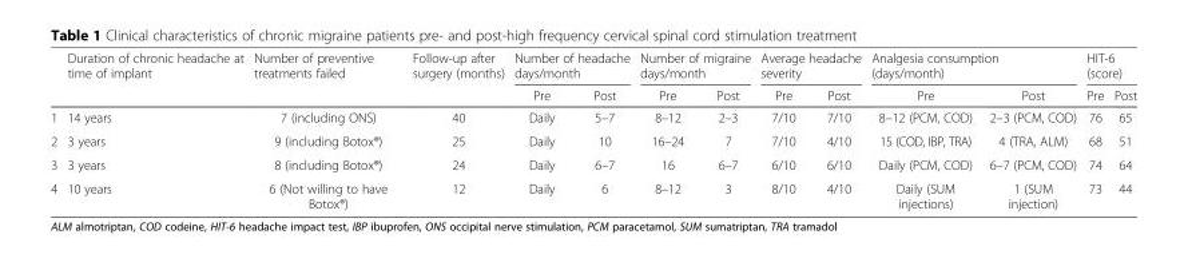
<table><thead><tr><td rowspan="2"></td><td rowspan="2">Duration of chronic headache at time of implant</td><td rowspan="2">Number of preventive treatments failed</td><td rowspan="2">Follow-up after surgery (months)</td><td colspan="2">Number of headache days/month</td><td colspan="2">Number of migraine days/month</td><td colspan="2">Average headache severity</td><td colspan="2">Analgesia consumption (days/month)</td><td colspan="2">HIT-6 (score)</td></tr><tr><td>Pre</td><td>Post</td><td>Pre</td><td>Post</td><td>Pre</td><td>Post</td><td>Pre</td><td>Post</td><td>Pre</td><td>Post</td></tr></thead><tbody><tr><td>1</td><td>14 years</td><td>7 (including ONS)</td><td>40</td><td>Daily</td><td>5–7</td><td>8–12</td><td>2–3</td><td>7/10</td><td>7/10</td><td>8–12 (PCM, COD)</td><td>2–3 (PCM, COD)</td><td>76</td><td>65</td></tr><tr><td>2</td><td>3 years</td><td>9 (including Botox®)</td><td>25</td><td>Daily</td><td>10</td><td>16–24</td><td>7</td><td>7/10</td><td>4/10</td><td>15 (COD, IBP, TRA)</td><td>4 (TRA, ALM)</td><td>68</td><td>51</td></tr><tr><td>3</td><td>3 years</td><td>8 (including Botox®)</td><td>24</td><td>Daily</td><td>6–7</td><td>16</td><td>6–7</td><td>6/10</td><td>6/10</td><td>Daily (PCM, COD)</td><td>6–7 (PCM, COD)</td><td>74</td><td>64</td></tr><tr><td>4</td><td>10 years</td><td>6 (Not willing to have Botox®)</td><td>12</td><td>Daily</td><td>6</td><td>8–12</td><td>3</td><td>8/10</td><td>4/10</td><td>Daily (SUM injections)</td><td>1 (SUM injection)</td><td>73</td><td>44</td></tr></tbody></table>